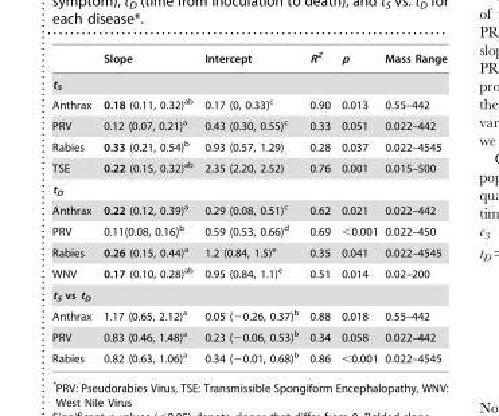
<table><thead><tr><td></td><td>Slope</td><td>Intercept</td><td>R<sup>2</sup></td><td>p</td><td>Mass Range</td></tr></thead><tbody><tr><td colspan="6">t<sub>S</sub></td></tr><tr><td>Anthrax</td><td>0.18 (0.11, 0.32)<sup>ab</sup></td><td>0.17 (0, 0.33)<sup>c</sup></td><td>0.90</td><td>0.013</td><td>0.55–442</td></tr><tr><td>PRV</td><td>0.12 (0.07, 0.21)<sup>a</sup></td><td>0.43 (0.30, 0.55)<sup>c</sup></td><td>0.33</td><td>0.051</td><td>0.022–442</td></tr><tr><td>Rabies</td><td>0.33 (0.21, 0.54)<sup>b</sup></td><td>0.93 (0.57, 1.29)</td><td>0.28</td><td>0.037</td><td>0.022–4545</td></tr><tr><td>TSE</td><td>0.22 (0.15, 0.32)<sup>ab</sup></td><td>2.35 (2.20, 2.52)</td><td>0.76</td><td>0.001</td><td>0.015–500</td></tr><tr><td colspan="6">t<sub>D</sub></td></tr><tr><td>Anthrax</td><td>0.22 (0.12, 0.39)<sup>a</sup></td><td>0.29 (0.08, 0.51)<sup>c</sup></td><td>0.62</td><td>0.021</td><td>0.022–442</td></tr><tr><td>PRV</td><td>0.11(0.08, 0.16)<sup>b</sup></td><td>0.59 (0.53, 0.66)<sup>d</sup></td><td>0.69</td><td>&lt;0.001</td><td>0.022–450</td></tr><tr><td>Rabies</td><td>0.26 (0.15, 0.44)<sup>a</sup></td><td>1.2 (0.84, 1.5)<sup>e</sup></td><td>0.35</td><td>0.041</td><td>0.022–4545</td></tr><tr><td>WNV</td><td>0.17 (0.10, 0.28)<sup>ab</sup></td><td>0.95 (0.84, 1.1)<sup>e</sup></td><td>0.51</td><td>0.014</td><td>0.02–200</td></tr><tr><td colspan="6">t<sub>S</sub> vs t<sub>D</sub></td></tr><tr><td>Anthrax</td><td>1.17 (0.65, 2.12)<sup>a</sup></td><td>0.05 (−0.26, 0.37)<sup>b</sup></td><td>0.88</td><td>0.018</td><td>0.55–442</td></tr><tr><td>PRV</td><td>0.83 (0.46, 1.48)<sup>a</sup></td><td>0.23 (−0.06, 0.53)<sup>b</sup></td><td>0.34</td><td>0.058</td><td>0.022–442</td></tr><tr><td>Rabies</td><td>0.82 (0.63, 1.06)<sup>a</sup></td><td>0.34 (−0.01, 0.68)<sup>b</sup></td><td>0.86</td><td>&lt;0.001</td><td>0.022–4545</td></tr></tbody></table>